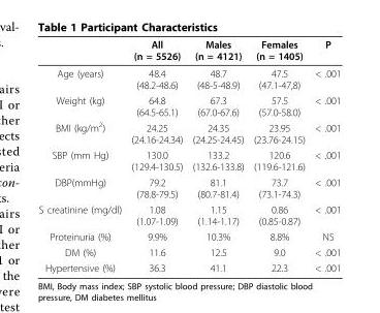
<table><thead><tr><td></td><td>All (n = 5526)</td><td>Males (n = 4121)</td><td>Females (n = 1405)</td><td>P</td></tr></thead><tbody><tr><td>Age (years)</td><td>48.4 (48.2-48.6)</td><td>48.7 (48-5-48.9)</td><td>47.5 (47.1-47,8)</td><td>&lt; .001</td></tr><tr><td>Weight (kg)</td><td>64.8 (64.5-65.1)</td><td>67.3 (67.0-67.6)</td><td>57.5 (57.0-58.0)</td><td>&lt; .001</td></tr><tr><td>BMI (kg/m<sup>2</sup>)</td><td>24.25 (24.16-24.34)</td><td>24.35 (24.25-24.45)</td><td>23.95 (23.76-24.15)</td><td>&lt; .001</td></tr><tr><td>SBP (mm Hg)</td><td>130.0 (129.4-130.5)</td><td>133.2 (132.6-133.8)</td><td>120.6 (119.6-121.6)</td><td>&lt; .001</td></tr><tr><td>DBP(mmHg)</td><td>79.2 (78.8-79.5)</td><td>81.1 (80.7-81.4)</td><td>73.7 (73.1-74.3)</td><td>&lt; .001</td></tr><tr><td>S creatinine (mg/dl)</td><td>1.08 (1.07-1.09)</td><td>1.15 (1.14-1.17)</td><td>0.86 (0.85-0.87)</td><td>&lt; .001</td></tr><tr><td>Proteinuria (%)</td><td>9.9%</td><td>10.3%</td><td>8.8%</td><td>NS</td></tr><tr><td>DM (%)</td><td>11.6</td><td>12.5</td><td>9.0</td><td>&lt; .001</td></tr><tr><td>Hypertensive (%)</td><td>36.3</td><td>41.1</td><td>22.3</td><td>&lt; .001</td></tr></tbody></table>